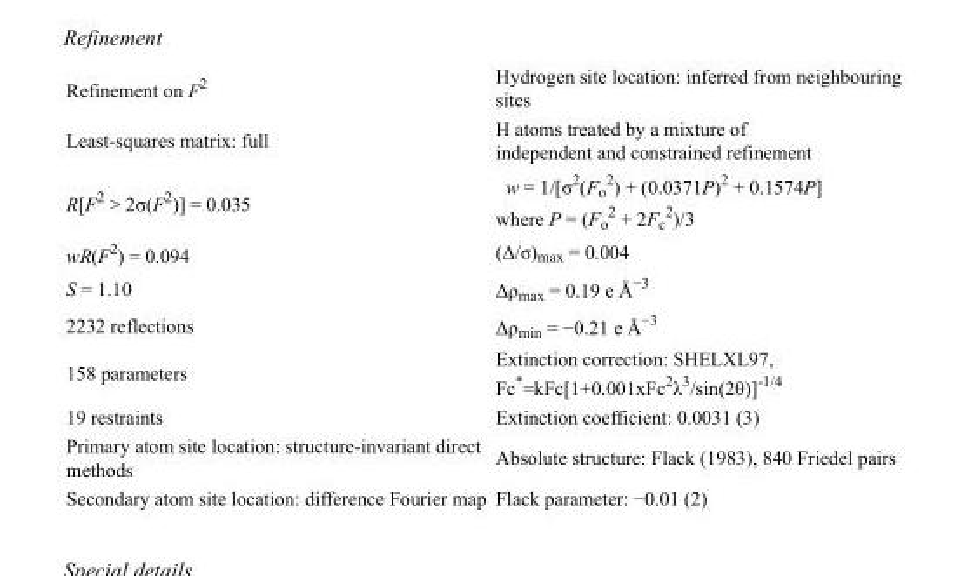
<table><tbody><tr><td>Refinement on F<sup>2</sup></td><td>Hydrogen site location: inferred from neighbouring sites</td></tr><tr><td>Least-squares matrix: full</td><td>H atoms treated by a mixture of independent and constrained refinement</td></tr><tr><td>R[F<sup>2</sup> &gt; 2σ(F<sup>2</sup>)] = 0.035</td><td>w = 1/[σ<sup>2</sup>(F<sub>o</sub> <sup>2</sup>) + (0.0371P)<sup>2</sup> + 0.1574P] where P = (F<sub>o</sub> <sup>2</sup> + 2F<sub>c</sub> <sup>2</sup>)/3</td></tr><tr><td>wR(F<sup>2</sup>) = 0.094</td><td>(Δ/σ)<sub>max</sub> = 0.004</td></tr><tr><td>S = 1.10</td><td>Δρ<sub>max</sub> = 0.19 e Å<sup>−3</sup></td></tr><tr><td>2232 reflections</td><td>Δρ<sub>min</sub> = −0.21 e Å<sup>−3</sup></td></tr><tr><td>158 parameters</td><td>Extinction correction: SHELXL97, Fc*=kFc[1+0.001xFc<sup>2</sup>λ<sup>3</sup>/sin(2θ)]<sup>-1/4</sup></td></tr><tr><td>19 restraints</td><td>Extinction coefficient: 0.0031 (3)</td></tr><tr><td>Primary atom site location: structure-invariant direct methods</td><td>Absolute structure: Flack (1983), 840 Friedel pairs</td></tr><tr><td>Secondary atom site location: difference Fourier map</td><td>Flack parameter: −0.01 (2)</td></tr></tbody></table>